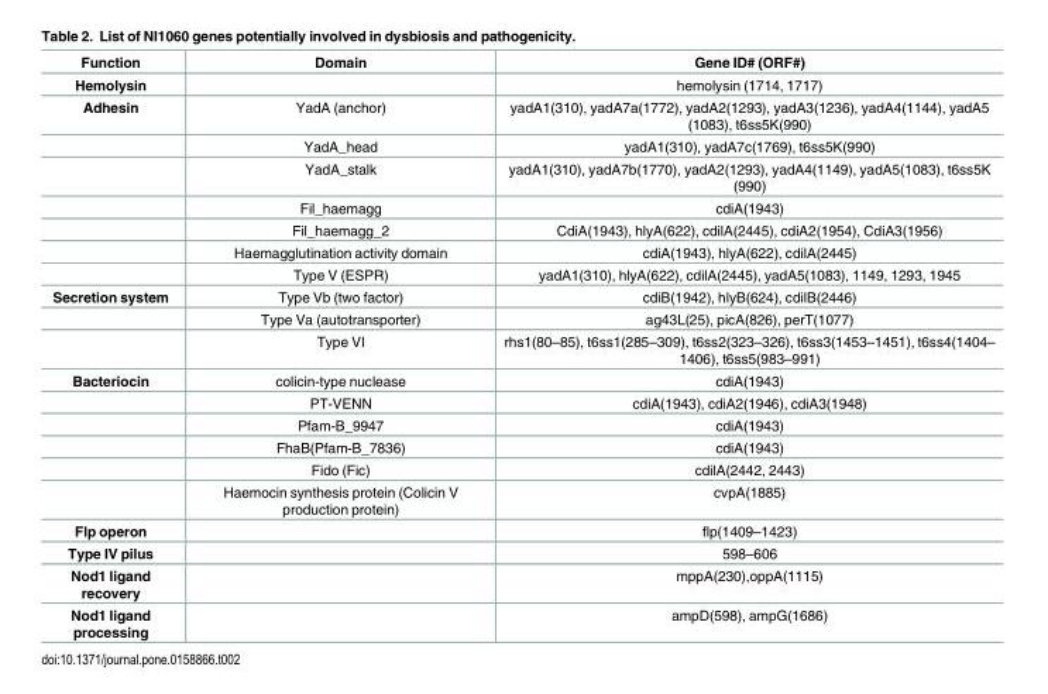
<table><thead><tr><td>Function</td><td>Domain</td><td>Gene ID# (ORF#)</td></tr></thead><tbody><tr><td>Hemolysin</td><td></td><td>hemolysin (1714, 1717)</td></tr><tr><td rowspan="7">Adhesin</td><td>YadA (anchor)</td><td>yadA1(310), yadA7a(1772), yadA2(1293), yadA3(1236), yadA4(1144), yadA5 (1083), t6ss5K(990)</td></tr><tr><td>YadA_head</td><td>yadA1(310), yadA7c(1769), t6ss5K(990)</td></tr><tr><td>YadA_stalk</td><td>yadA1(310), yadA7b(1770), yadA2(1293), yadA4(1149), yadA5(1083), t6ss5K (990)</td></tr><tr><td>Fil_haemagg</td><td>cdiA(1943)</td></tr><tr><td>Fil_haemagg_2</td><td>CdiA(1943), hlyA(622), cdilA(2445), cdiA2(1954), CdiA3(1956)</td></tr><tr><td>Haemagglutination activity domain</td><td>cdiA(1943), hlyA(622), cdilA(2445)</td></tr><tr><td>Type V (ESPR)</td><td>yadA1(310), hlyA(622), cdilA(2445), yadA5(1083), 1149, 1293, 1945</td></tr><tr><td rowspan="3">Secretion system</td><td>Type Vb (two factor)</td><td>cdiB(1942), hlyB(624), cdilB(2446)</td></tr><tr><td>Type Va (autotransporter)</td><td>ag43L(25), picA(826), perT(1077)</td></tr><tr><td>Type VI</td><td>rhs1(80–85), t6ss1(285–309), t6ss2(323–326), t6ss3(1453–1451), t6ss4(1404– 1406), t6ss5(983–991)</td></tr><tr><td rowspan="6">Bacteriocin</td><td>colicin-type nuclease</td><td>cdiA(1943)</td></tr><tr><td>PT-VENN</td><td>cdiA(1943), cdiA2(1946), cdiA3(1948)</td></tr><tr><td>Pfam-B_9947</td><td>cdiA(1943)</td></tr><tr><td>FhaB(Pfam-B_7836)</td><td>cdiA(1943)</td></tr><tr><td>Fido (Fic)</td><td>cdilA(2442, 2443)</td></tr><tr><td>Haemocin synthesis protein (Colicin V production protein)</td><td>cvpA(1885)</td></tr><tr><td>Flp operon</td><td></td><td>flp(1409–1423)</td></tr><tr><td>Type IV pilus</td><td></td><td>598–606</td></tr><tr><td>Nod1 ligand recovery</td><td></td><td>mppA(230),oppA(1115)</td></tr><tr><td>Nod1 ligand processing</td><td></td><td>ampD(598), ampG(1686)</td></tr></tbody></table>